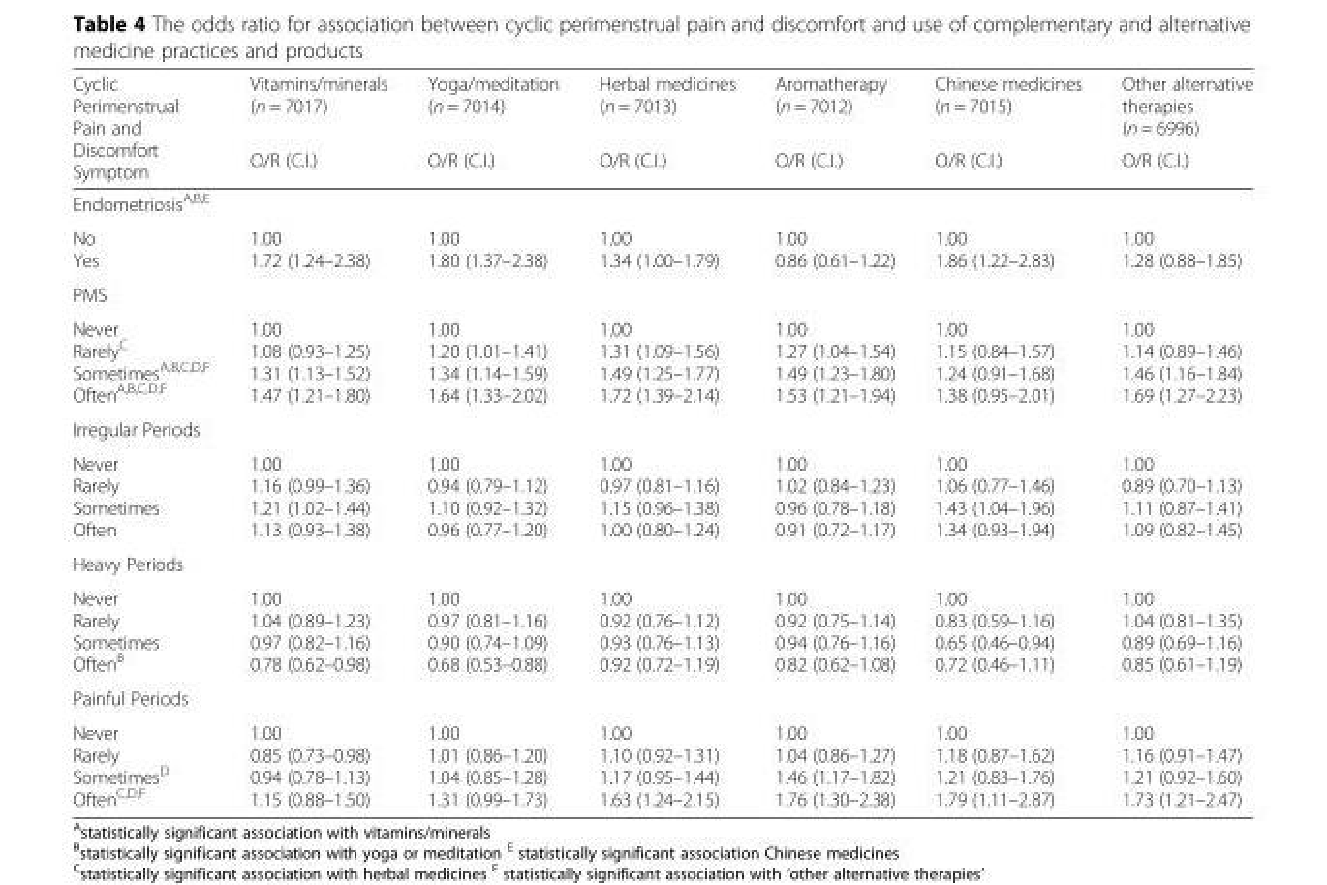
<table><thead><tr><td rowspan="2">Cyclic Perimenstrual Pain and Discomfort Symptom</td><td rowspan="2">Vitamins/minerals (n = 7017) O/R (C.I.)</td><td rowspan="2">Yoga/meditation (n = 7014) O/R (C.I.)</td><td rowspan="2">Herbal medicines (n = 7013) O/R (C.I.)</td><td rowspan="2">Aromatherapy (n = 7012) O/R (C.I.)</td><td rowspan="2">Chinese medicines (n = 7015) O/R (C.I.)</td><td rowspan="2">Other alternative therapies (n = 6996) O/R (C.I.)</td></tr><tr></tr></thead><tbody><tr><td colspan="7">Endometriosis<sup>A,B,E</sup></td></tr><tr><td>No Yes</td><td>1.00 1.72 (1.24–2.38)</td><td>1.00 1.80 (1.37–2.38)</td><td>1.00 1.34 (1.00–1.79)</td><td>1.00 0.86 (0.61–1.22)</td><td>1.00 1.86 (1.22–2.83)</td><td>1.00 1.28 (0.88–1.85)</td></tr><tr><td colspan="7">PMS</td></tr><tr><td>Never Rarely<sup>C</sup> Sometimes<sup>A,B,C,D,F</sup> Often<sup>A,B,C,D,F</sup></td><td>1.00 1.08 (0.93–1.25) 1.31 (1.13–1.52) 1.47 (1.21–1.80)</td><td>1.00 1.20 (1.01–1.41) 1.34 (1.14–1.59) 1.64 (1.33–2.02)</td><td>1.00 1.31 (1.09–1.56) 1.49 (1.25–1.77) 1.72 (1.39–2.14)</td><td>1.00 1.27 (1.04–1.54) 1.49 (1.23–1.80) 1.53 (1.21–1.94)</td><td>1.00 1.15 (0.84–1.57) 1.24 (0.91–1.68) 1.38 (0.95–2.01)</td><td>1.00 1.14 (0.89–1.46) 1.46 (1.16–1.84) 1.69 (1.27–2.23)</td></tr><tr><td colspan="7">Irregular Periods</td></tr><tr><td>Never Rarely Sometimes Often</td><td>1.00 1.16 (0.99–1.36) 1.21 (1.02–1.44) 1.13 (0.93–1.38)</td><td>1.00 0.94 (0.79–1.12) 1.10 (0.92–1.32) 0.96 (0.77–1.20)</td><td>1.00 0.97 (0.81–1.16) 1.15 (0.96–1.38) 1.00 (0.80–1.24)</td><td>1.00 1.02 (0.84–1.23) 0.96 (0.78–1.18) 0.91 (0.72–1.17)</td><td>1.00 1.06 (0.77–1.46) 1.43 (1.04–1.96) 1.34 (0.93–1.94)</td><td>1.00 0.89 (0.70–1.13) 1.11 (0.87–1.41) 1.09 (0.82–1.45)</td></tr><tr><td colspan="7">Heavy Periods</td></tr><tr><td>Never Rarely Sometimes Often<sup>B</sup></td><td>1.00 1.04 (0.89–1.23) 0.97 (0.82–1.16) 0.78 (0.62–0.98)</td><td>1.00 0.97 (0.81–1.16) 0.90 (0.74–1.09) 0.68 (0.53–0.88)</td><td>1.00 0.92 (0.76–1.12) 0.93 (0.76–1.13) 0.92 (0.72–1.19)</td><td>1.00 0.92 (0.75–1.14) 0.94 (0.76–1.16) 0.82 (0.62–1.08)</td><td>1.00 0.83 (0.59–1.16) 0.65 (0.46–0.94) 0.72 (0.46–1.11)</td><td>1.00 1.04 (0.81–1.35) 0.89 (0.69–1.16) 0.85 (0.61–1.19)</td></tr><tr><td colspan="7">Painful Periods</td></tr><tr><td>Never Rarely Sometimes<sup>D</sup> Often<sup>C,D,F</sup></td><td>1.00 0.85 (0.73–0.98) 0.94 (0.78–1.13) 1.15 (0.88–1.50)</td><td>1.00 1.01 (0.86–1.20) 1.04 (0.85–1.28) 1.31 (0.99–1.73)</td><td>1.00 1.10 (0.92–1.31) 1.17 (0.95–1.44) 1.63 (1.24–2.15)</td><td>1.00 1.04 (0.86–1.27) 1.46 (1.17–1.82) 1.76 (1.30–2.38)</td><td>1.00 1.18 (0.87–1.62) 1.21 (0.83–1.76) 1.79 (1.11–2.87)</td><td>1.00 1.16 (0.91–1.47) 1.21 (0.92–1.60) 1.73 (1.21–2.47)</td></tr></tbody></table>